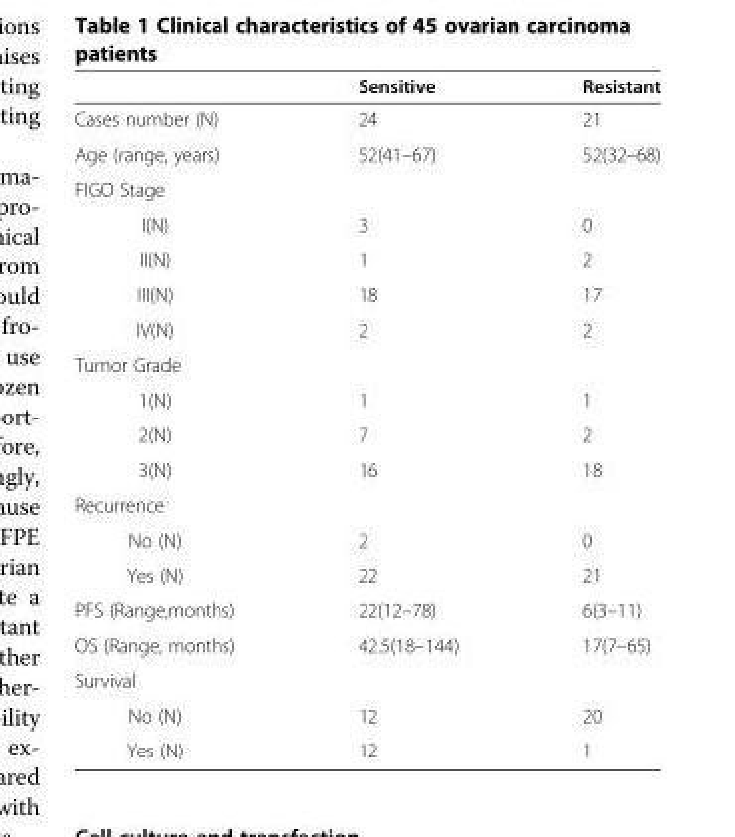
<table><thead><tr><td></td><td>Sensitive</td><td>Resistant</td></tr></thead><tbody><tr><td>Cases number (N)</td><td>24</td><td>21</td></tr><tr><td>Age (range, years)</td><td>52(41–67)</td><td>52(32–68)</td></tr><tr><td colspan="3">FIGO Stage</td></tr><tr><td>I(N)</td><td>3</td><td>0</td></tr><tr><td>II(N)</td><td>1</td><td>2</td></tr><tr><td>III(N)</td><td>18</td><td>17</td></tr><tr><td>IV(N)</td><td>2</td><td>2</td></tr><tr><td colspan="3">Tumor Grade</td></tr><tr><td>1(N)</td><td>1</td><td>1</td></tr><tr><td>2(N)</td><td>7</td><td>2</td></tr><tr><td>3(N)</td><td>16</td><td>18</td></tr><tr><td colspan="3">Recurrence</td></tr><tr><td>No (N)</td><td>2</td><td>0</td></tr><tr><td>Yes (N)</td><td>22</td><td>21</td></tr><tr><td>PFS (Range,months)</td><td>22(12–78)</td><td>6(3–11)</td></tr><tr><td>OS (Range, months)</td><td>42.5(18–144)</td><td>17(7–65)</td></tr><tr><td colspan="3">Survival</td></tr><tr><td>No (N)</td><td>12</td><td>20</td></tr><tr><td>Yes (N)</td><td>12</td><td>1</td></tr></tbody></table>